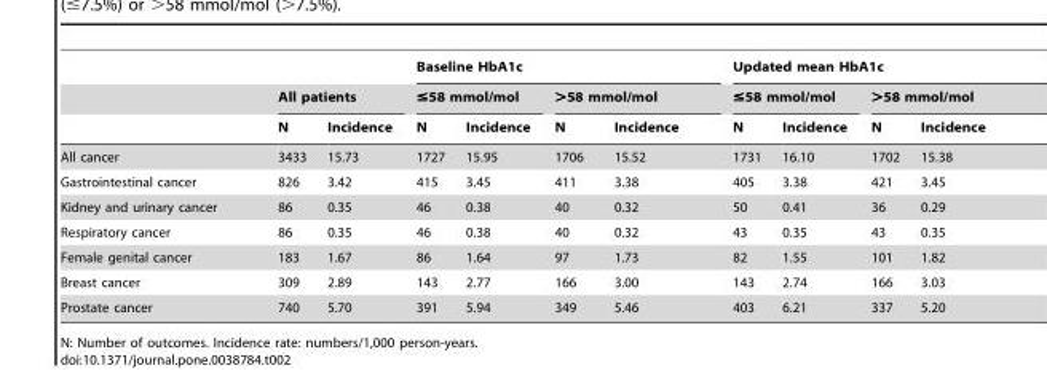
<table><thead><tr><td rowspan="3"></td><td></td><td></td><td colspan="4">Baseline HbA1c</td><td colspan="4">Updated mean HbA1c</td></tr><tr><td colspan="2">All patients</td><td colspan="2">≤58 mmol/mol</td><td colspan="2">&gt;58 mmol/mol</td><td colspan="2">≤58 mmol/mol</td><td colspan="2">&gt;58 mmol/mol</td></tr><tr><td>N</td><td>Incidence</td><td>N</td><td>Incidence</td><td>N</td><td>Incidence</td><td>N</td><td>Incidence</td><td>N</td><td>Incidence</td></tr></thead><tbody><tr><td>All cancer</td><td>3433</td><td>15.73</td><td>1727</td><td>15.95</td><td>1706</td><td>15.52</td><td>1731</td><td>16.10</td><td>1702</td><td>15.38</td></tr><tr><td>Gastrointestinal cancer</td><td>826</td><td>3.42</td><td>415</td><td>3.45</td><td>411</td><td>3.38</td><td>405</td><td>3.38</td><td>421</td><td>3.45</td></tr><tr><td>Kidney and urinary cancer</td><td>86</td><td>0.35</td><td>46</td><td>0.38</td><td>40</td><td>0.32</td><td>50</td><td>0.41</td><td>36</td><td>0.29</td></tr><tr><td>Respiratory cancer</td><td>86</td><td>0.35</td><td>46</td><td>0.38</td><td>40</td><td>0.32</td><td>43</td><td>0.35</td><td>43</td><td>0.35</td></tr><tr><td>Female genital cancer</td><td>183</td><td>1.67</td><td>86</td><td>1.64</td><td>97</td><td>1.73</td><td>82</td><td>1.55</td><td>101</td><td>1.82</td></tr><tr><td>Breast cancer</td><td>309</td><td>2.89</td><td>143</td><td>2.77</td><td>166</td><td>3.00</td><td>143</td><td>2.74</td><td>166</td><td>3.03</td></tr><tr><td>Prostate cancer</td><td>740</td><td>5.70</td><td>391</td><td>5.94</td><td>349</td><td>5.46</td><td>403</td><td>6.21</td><td>337</td><td>5.20</td></tr></tbody></table>